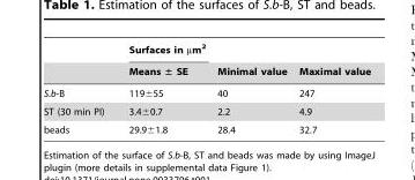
<table><thead><tr><td rowspan="2"></td><td rowspan="2">Surfaces in µm<sup>2</sup> Means ± SE</td><td rowspan="2">Minimal value</td><td rowspan="2">Maximal value</td></tr><tr></tr></thead><tbody><tr><td>S.b-B</td><td>119±55</td><td>40</td><td>247</td></tr><tr><td>ST (30 min PI)</td><td>3.4±0.7</td><td>2.2</td><td>4.9</td></tr><tr><td>beads</td><td>29.9±1.8</td><td>28.4</td><td>32.7</td></tr></tbody></table>